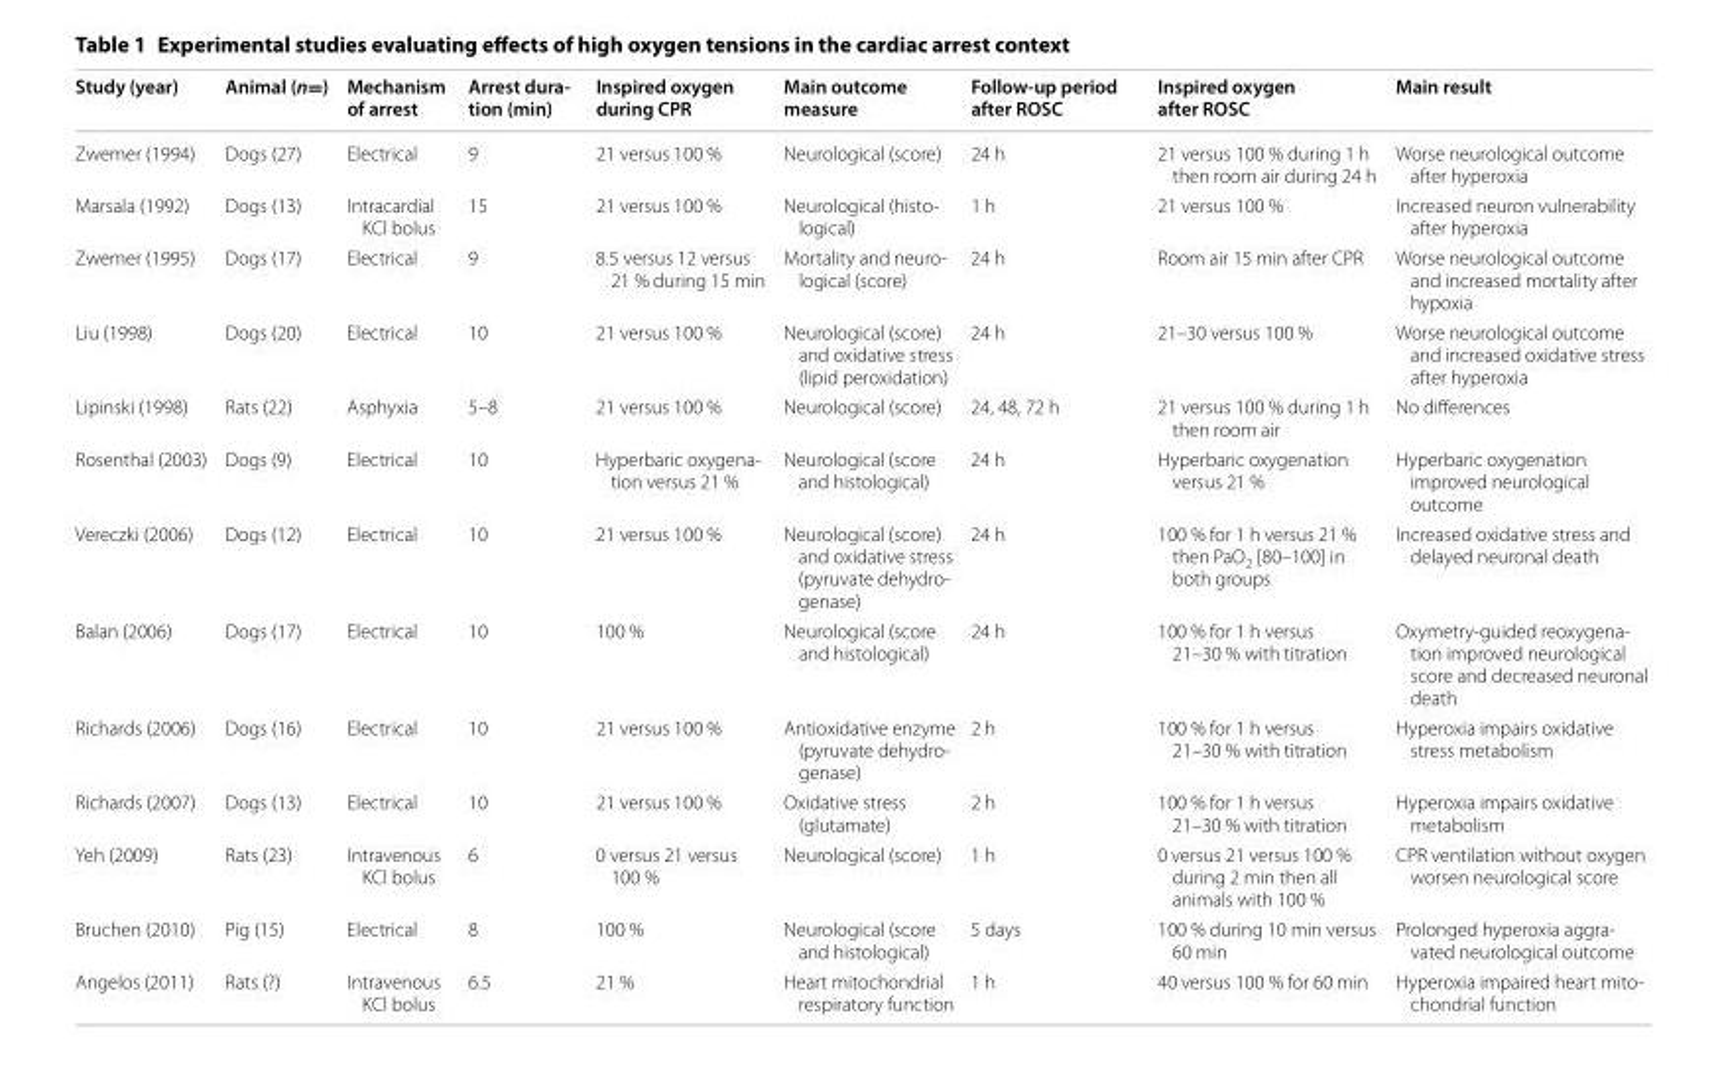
<table><thead><tr><td>Study (year)</td><td>Animal (n=)</td><td>Mechanism of arrest</td><td>Arrest dura- tion (min)</td><td>Inspired oxygen during CPR</td><td>Main outcome measure</td><td>Follow-up period after ROSC</td><td>Inspired oxygen after ROSC</td><td>Main result</td></tr></thead><tbody><tr><td>Zwemer (1994)</td><td>Dogs (27)</td><td>Electrical</td><td>9</td><td>21 versus 100 %</td><td>Neurological (score)</td><td>24 h</td><td>21 versus 100 % during 1 h then room air during 24 h</td><td>Worse neurological outcome after hyperoxia</td></tr><tr><td>Marsala (1992)</td><td>Dogs (13)</td><td>Intracardial KCl bolus</td><td>15</td><td>21 versus 100 %</td><td>Neurological (histo‑ logical)</td><td>1 h</td><td>21 versus 100 %</td><td>Increased neuron vulnerability after hyperoxia</td></tr><tr><td>Zwemer (1995)</td><td>Dogs (17)</td><td>Electrical</td><td>9</td><td>8.5 versus 12 versus 21 % during 15 min</td><td>Mortality and neuro‑ logical (score)</td><td>24 h</td><td>Room air 15 min after CPR</td><td>Worse neurological outcome and increased mortality after hypoxia</td></tr><tr><td>Liu (1998)</td><td>Dogs (20)</td><td>Electrical</td><td>10</td><td>21 versus 100 %</td><td>Neurological (score) and oxidative stress (lipid peroxidation)</td><td>24 h</td><td>21–30 versus 100 %</td><td>Worse neurological outcome and increased oxidative stress after hyperoxia</td></tr><tr><td>Lipinski (1998)</td><td>Rats (22)</td><td>Asphyxia</td><td>5–8</td><td>21 versus 100 %</td><td>Neurological (score)</td><td>24, 48, 72 h</td><td>21 versus 100 % during 1 h then room air</td><td>No differences</td></tr><tr><td>Rosenthal (2003)</td><td>Dogs (9)</td><td>Electrical</td><td>10</td><td>Hyperbaric oxygena‑ tion versus 21 %</td><td>Neurological (score and histological)</td><td>24 h</td><td>Hyperbaric oxygenation versus 21 %</td><td>Hyperbaric oxygenation improved neurological outcome</td></tr><tr><td>Vereczki (2006)</td><td>Dogs (12)</td><td>Electrical</td><td>10</td><td>21 versus 100 %</td><td>Neurological (score) and oxidative stress (pyruvate dehydro‑ genase)</td><td>24 h</td><td>100 % for 1 h versus 21 % then PaO<sub>2</sub> [80–100] in both groups</td><td>Increased oxidative stress and delayed neuronal death</td></tr><tr><td>Balan (2006)</td><td>Dogs (17)</td><td>Electrical</td><td>10</td><td>100 %</td><td>Neurological (score and histological)</td><td>24 h</td><td>100 % for 1 h versus 21–30 % with titration</td><td>Oxymetry‑guided reoxygena‑ tion improved neurological score and decreased neuronal death</td></tr><tr><td>Richards (2006)</td><td>Dogs (16)</td><td>Electrical</td><td>10</td><td>21 versus 100 %</td><td>Antioxidative enzyme (pyruvate dehydro‑ genase)</td><td>2 h</td><td>100 % for 1 h versus 21–30 % with titration</td><td>Hyperoxia impairs oxidative stress metabolism</td></tr><tr><td>Richards (2007)</td><td>Dogs (13)</td><td>Electrical</td><td>10</td><td>21 versus 100 %</td><td>Oxidative stress (glutamate)</td><td>2 h</td><td>100 % for 1 h versus 21–30 % with titration</td><td>Hyperoxia impairs oxidative metabolism</td></tr><tr><td>Yeh (2009)</td><td>Rats (23)</td><td>Intravenous KCl bolus</td><td>6</td><td>0 versus 21 versus 100 %</td><td>Neurological (score)</td><td>1 h</td><td>0 versus 21 versus 100 % during 2 min then all animals with 100 %</td><td>CPR ventilation without oxygen worsen neurological score</td></tr><tr><td>Bruchen (2010)</td><td>Pig (15)</td><td>Electrical</td><td>8</td><td>100 %</td><td>Neurological (score and histological)</td><td>5 days</td><td>100 % during 10 min versus 60 min</td><td>Prolonged hyperoxia aggra‑ vated neurological outcome</td></tr><tr><td>Angelos (2011)</td><td>Rats (?)</td><td>Intravenous KCl bolus</td><td>6.5</td><td>21 %</td><td>Heart mitochondrial respiratory function</td><td>1 h</td><td>40 versus 100 % for 60 min</td><td>Hyperoxia impaired heart mito‑ chondrial function</td></tr></tbody></table>